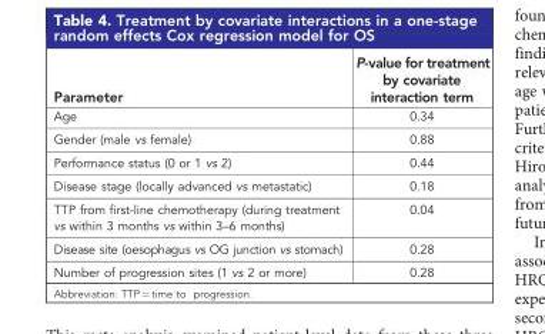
<table><thead><tr><td>Parameter</td><td>P-value for treatment by covariate interaction term</td></tr></thead><tbody><tr><td>Age</td><td>0.34</td></tr><tr><td>Gender (male vs female)</td><td>0.88</td></tr><tr><td>Performance status (0 or 1 vs 2)</td><td>0.44</td></tr><tr><td>Disease stage (locally advanced vs metastatic)</td><td>0.18</td></tr><tr><td>TTP from first-line chemotherapy (during treatment vs within 3 months vs within 3–6 months)</td><td>0.04</td></tr><tr><td>Disease site (oesophagus vs OG junction vs stomach)</td><td>0.28</td></tr><tr><td>Number of progression sites (1 vs 2 or more)</td><td>0.28</td></tr></tbody></table>